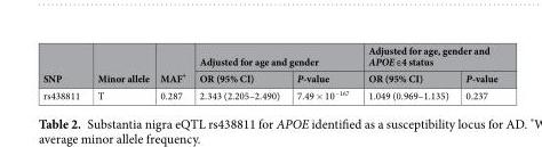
<table><thead><tr><td rowspan="2">SNP</td><td rowspan="2">Minor allele</td><td rowspan="2">MAF*</td><td colspan="2">Adjusted for age and gender</td><td colspan="2">Adjusted for age, gender and APOE ε4 status</td></tr><tr><td>OR (95% CI)</td><td>P-value</td><td>OR (95% CI)</td><td>P-value</td></tr></thead><tbody><tr><td>rs438811</td><td>T</td><td>0.287</td><td>2.343 (2.205–2.490)</td><td>7.49 × 10<sup>−167</sup></td><td>1.049 (0.969–1.135)</td><td>0.237</td></tr></tbody></table>